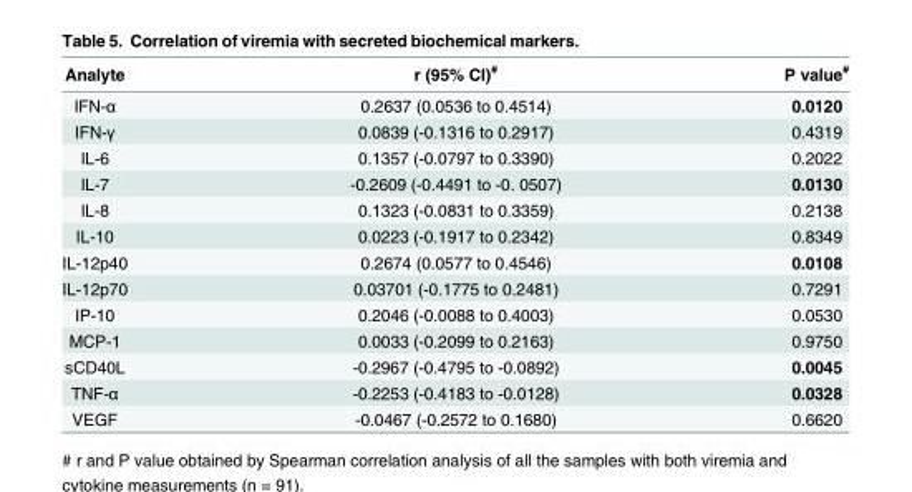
<table><thead><tr><td>Analyte</td><td>r (95% CI)<sup>#</sup></td><td>P value<sup>#</sup></td></tr></thead><tbody><tr><td>IFN-α</td><td>0.2637 (0.0536 to 0.4514)</td><td>0.0120</td></tr><tr><td>IFN-γ</td><td>0.0839 (-0.1316 to 0.2917)</td><td>0.4319</td></tr><tr><td>IL-6</td><td>0.1357 (-0.0797 to 0.3390)</td><td>0.2022</td></tr><tr><td>IL-7</td><td>-0.2609 (-0.4491 to -0. 0507)</td><td>0.0130</td></tr><tr><td>IL-8</td><td>0.1323 (-0.0831 to 0.3359)</td><td>0.2138</td></tr><tr><td>IL-10</td><td>0.0223 (-0.1917 to 0.2342)</td><td>0.8349</td></tr><tr><td>IL-12p40</td><td>0.2674 (0.0577 to 0.4546)</td><td>0.0108</td></tr><tr><td>IL-12p70</td><td>0.03701 (-0.1775 to 0.2481)</td><td>0.7291</td></tr><tr><td>IP-10</td><td>0.2046 (-0.0088 to 0.4003)</td><td>0.0530</td></tr><tr><td>MCP-1</td><td>0.0033 (-0.2099 to 0.2163)</td><td>0.9750</td></tr><tr><td>sCD40L</td><td>-0.2967 (-0.4795 to -0.0892)</td><td>0.0045</td></tr><tr><td>TNF-α</td><td>-0.2253 (-0.4183 to -0.0128)</td><td>0.0328</td></tr><tr><td>VEGF</td><td>-0.0467 (-0.2572 to 0.1680)</td><td>0.6620</td></tr></tbody></table>